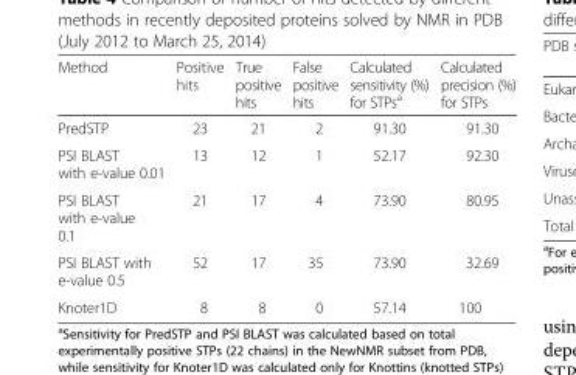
<table><thead><tr><td>Method</td><td>Positive hits</td><td>True positive hits</td><td>False positive hits</td><td>Calculated sensitivity (%) for STPs<sup>a</sup></td><td>Calculated precision (%) for STPs</td></tr></thead><tbody><tr><td>PredSTP</td><td>23</td><td>21</td><td>2</td><td>91.30</td><td>91.30</td></tr><tr><td>PSI BLAST with e-value 0.01</td><td>13</td><td>12</td><td>1</td><td>52.17</td><td>92.30</td></tr><tr><td>PSI BLAST with e-value 0.1</td><td>21</td><td>17</td><td>4</td><td>73.90</td><td>80.95</td></tr><tr><td>PSI BLAST with e-value 0.5</td><td>52</td><td>17</td><td>35</td><td>73.90</td><td>32.69</td></tr><tr><td>Knoter1D</td><td>8</td><td>8</td><td>0</td><td>57.14</td><td>100</td></tr></tbody></table>